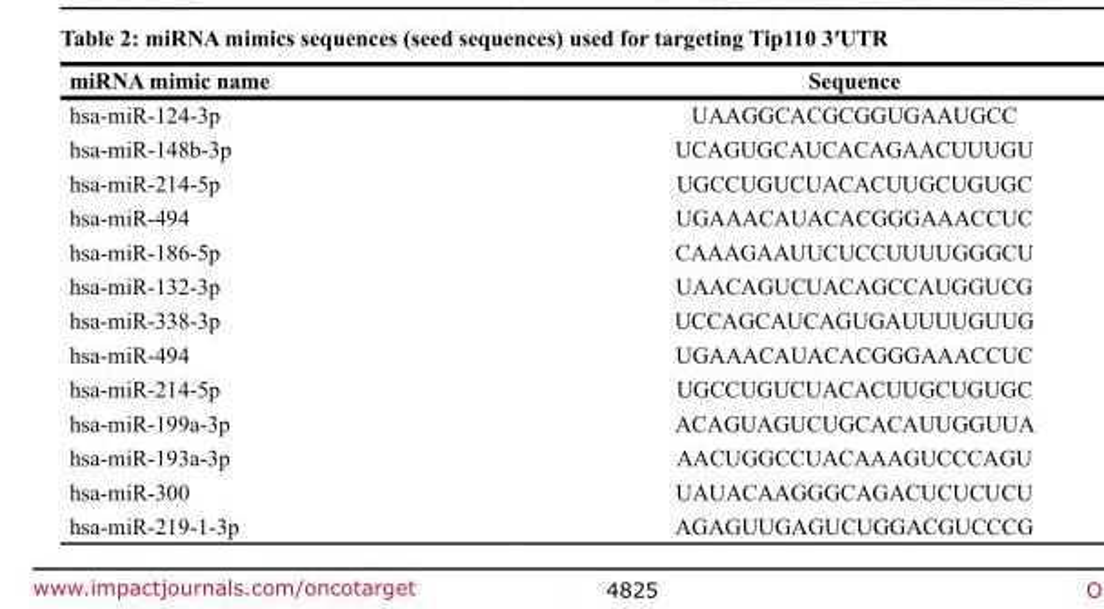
<table><thead><tr><td>miRNA mimic name</td><td>Sequence</td></tr></thead><tbody><tr><td>hsa-miR-124-3p</td><td>UAAGGCACGCGGUGAAUGCC</td></tr><tr><td>hsa-miR-148b-3p</td><td>UCAGUGCAUCACAGAACUUUGU</td></tr><tr><td>hsa-miR-214-5p</td><td>UGCCUGUCUACACUUGCUGUGC</td></tr><tr><td>hsa-miR-494</td><td>UGAAACAUACACGGGAAACCUC</td></tr><tr><td>hsa-miR-186-5p</td><td>CAAAGAAUUCUCCUUUUGGGCU</td></tr><tr><td>hsa-miR-132-3p</td><td>UAACAGUCUACAGCCAUGGUCG</td></tr><tr><td>hsa-miR-338-3p</td><td>UCCAGCAUCAGUGAUUUUGUUG</td></tr><tr><td>hsa-miR-494</td><td>UGAAACAUACACGGGAAACCUC</td></tr><tr><td>hsa-miR-214-5p</td><td>UGCCUGUCUACACUUGCUGUGC</td></tr><tr><td>hsa-miR-199a-3p</td><td>ACAGUAGUCUGCACAUUGGUUA</td></tr><tr><td>hsa-miR-193a-3p</td><td>AACUGGCCUACAAAGUCCCAGU</td></tr><tr><td>hsa-miR-300</td><td>UAUACAAGGGCAGACUCUCUCU</td></tr><tr><td>hsa-miR-219-1-3p</td><td>AGAGUUGAGUCUGGACGUCCCG</td></tr></tbody></table>